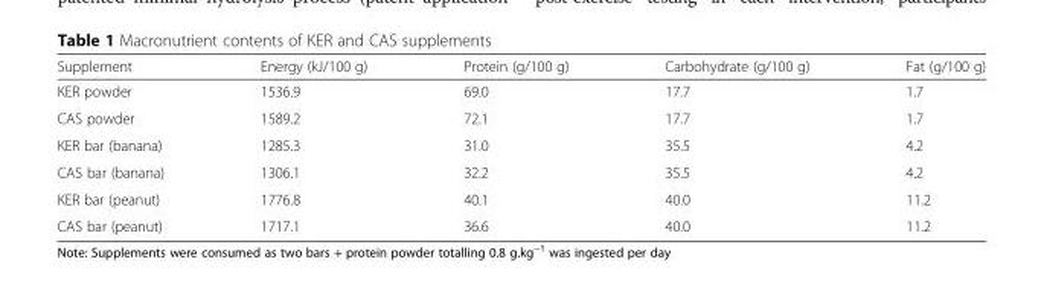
<table><thead><tr><td>Supplement</td><td>Energy (kJ/100 g)</td><td>Protein (g/100 g)</td><td>Carbohydrate (g/100 g)</td><td>Fat (g/100 g)</td></tr></thead><tbody><tr><td>KER powder</td><td>1536.9</td><td>69.0</td><td>17.7</td><td>1.7</td></tr><tr><td>CAS powder</td><td>1589.2</td><td>72.1</td><td>17.7</td><td>1.7</td></tr><tr><td>KER bar (banana)</td><td>1285.3</td><td>31.0</td><td>35.5</td><td>4.2</td></tr><tr><td>CAS bar (banana)</td><td>1306.1</td><td>32.2</td><td>35.5</td><td>4.2</td></tr><tr><td>KER bar (peanut)</td><td>1776.8</td><td>40.1</td><td>40.0</td><td>11.2</td></tr><tr><td>CAS bar (peanut)</td><td>1717.1</td><td>36.6</td><td>40.0</td><td>11.2</td></tr></tbody></table>